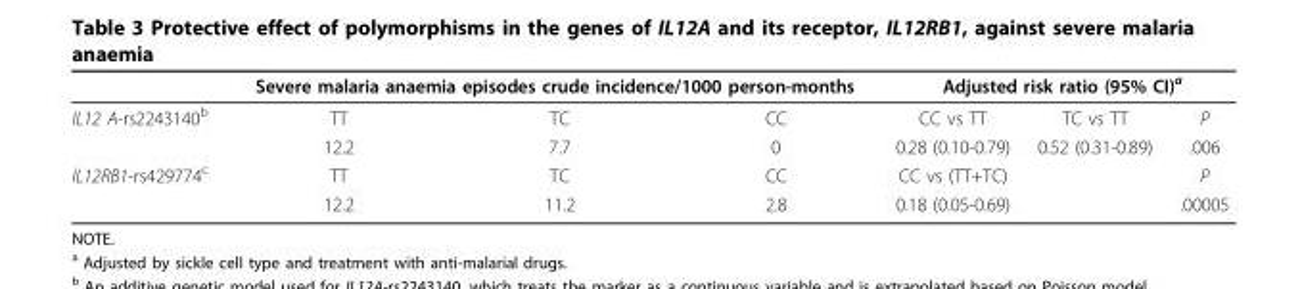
<table><thead><tr><td rowspan="2">IL12 A-rs2243140<sup>b</sup></td><td colspan="3">Severe malaria anaemia episodes crude incidence/1000 person-months</td><td colspan="3">Adjusted risk ratio (95% CI)<sup>a</sup></td></tr><tr><td>TT</td><td>TC</td><td>CC</td><td>CC vs TT</td><td>TC vs TT</td><td>P</td></tr></thead><tbody><tr><td></td><td>12.2</td><td>7.7</td><td>0</td><td>0.28 (0.10-0.79)</td><td>0.52 (0.31-0.89)</td><td>.006</td></tr><tr><td rowspan="2">IL12RB1-rs429774<sup>c</sup></td><td>TT</td><td>TC</td><td>CC</td><td>CC vs (TT+TC)</td><td></td><td>P</td></tr><tr><td>12.2</td><td>11.2</td><td>2.8</td><td>0.18 (0.05-0.69)</td><td></td><td>.00005</td></tr></tbody></table>